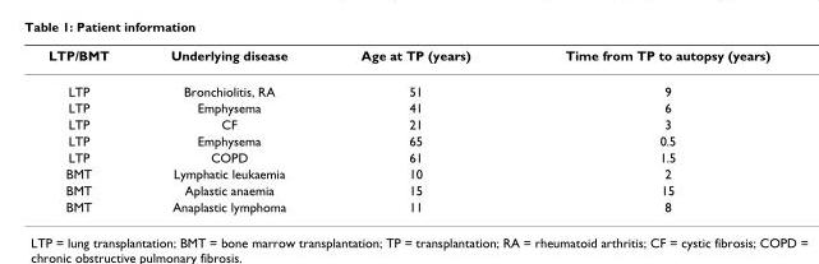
<table><thead><tr><td>LTP/BMT</td><td>Underlying disease</td><td>Age at TP (years)</td><td>Time from TP to autopsy (years)</td></tr></thead><tbody><tr><td>LTP</td><td>Bronchiolitis, RA</td><td>51</td><td>9</td></tr><tr><td>LTP</td><td>Emphysema</td><td>41</td><td>6</td></tr><tr><td>LTP</td><td>CF</td><td>21</td><td>3</td></tr><tr><td>LTP</td><td>Emphysema</td><td>65</td><td>0.5</td></tr><tr><td>LTP</td><td>COPD</td><td>61</td><td>1.5</td></tr><tr><td>BMT</td><td>Lymphatic leukaemia</td><td>10</td><td>2</td></tr><tr><td>BMT</td><td>Aplastic anaemia</td><td>15</td><td>15</td></tr><tr><td>BMT</td><td>Anaplastic lymphoma</td><td>11</td><td>8</td></tr></tbody></table>